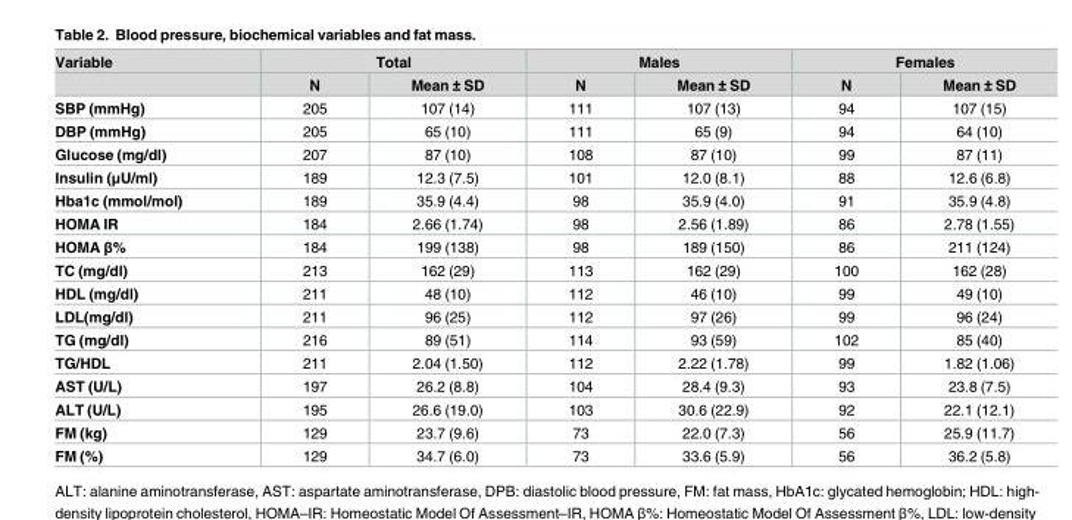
<table><thead><tr><td rowspan="2">Variable</td><td colspan="2">Total</td><td colspan="2">Males</td><td colspan="2">Females</td></tr><tr><td>N</td><td>Mean ± SD</td><td>N</td><td>Mean ± SD</td><td>N</td><td>Mean ± SD</td></tr></thead><tbody><tr><td>SBP (mmHg)</td><td>205</td><td>107 (14)</td><td>111</td><td>107 (13)</td><td>94</td><td>107 (15)</td></tr><tr><td>DBP (mmHg)</td><td>205</td><td>65 (10)</td><td>111</td><td>65 (9)</td><td>94</td><td>64 (10)</td></tr><tr><td>Glucose (mg/dl)</td><td>207</td><td>87 (10)</td><td>108</td><td>87 (10)</td><td>99</td><td>87 (11)</td></tr><tr><td>Insulin (μU/ml)</td><td>189</td><td>12.3 (7.5)</td><td>101</td><td>12.0 (8.1)</td><td>88</td><td>12.6 (6.8)</td></tr><tr><td>Hba1c (mmol/mol)</td><td>189</td><td>35.9 (4.4)</td><td>98</td><td>35.9 (4.0)</td><td>91</td><td>35.9 (4.8)</td></tr><tr><td>HOMA IR</td><td>184</td><td>2.66 (1.74)</td><td>98</td><td>2.56 (1.89)</td><td>86</td><td>2.78 (1.55)</td></tr><tr><td>HOMA β%</td><td>184</td><td>199 (138)</td><td>98</td><td>189 (150)</td><td>86</td><td>211 (124)</td></tr><tr><td>TC (mg/dl)</td><td>213</td><td>162 (29)</td><td>113</td><td>162 (29)</td><td>100</td><td>162 (28)</td></tr><tr><td>HDL (mg/dl)</td><td>211</td><td>48 (10)</td><td>112</td><td>46 (10)</td><td>99</td><td>49 (10)</td></tr><tr><td>LDL(mg/dl)</td><td>211</td><td>96 (25)</td><td>112</td><td>97 (26)</td><td>99</td><td>96 (24)</td></tr><tr><td>TG (mg/dl)</td><td>216</td><td>89 (51)</td><td>114</td><td>93 (59)</td><td>102</td><td>85 (40)</td></tr><tr><td>TG/HDL</td><td>211</td><td>2.04 (1.50)</td><td>112</td><td>2.22 (1.78)</td><td>99</td><td>1.82 (1.06)</td></tr><tr><td>AST (U/L)</td><td>197</td><td>26.2 (8.8)</td><td>104</td><td>28.4 (9.3)</td><td>93</td><td>23.8 (7.5)</td></tr><tr><td>ALT (U/L)</td><td>195</td><td>26.6 (19.0)</td><td>103</td><td>30.6 (22.9)</td><td>92</td><td>22.1 (12.1)</td></tr><tr><td>FM (kg)</td><td>129</td><td>23.7 (9.6)</td><td>73</td><td>22.0 (7.3)</td><td>56</td><td>25.9 (11.7)</td></tr><tr><td>FM (%)</td><td>129</td><td>34.7 (6.0)</td><td>73</td><td>33.6 (5.9)</td><td>56</td><td>36.2 (5.8)</td></tr></tbody></table>